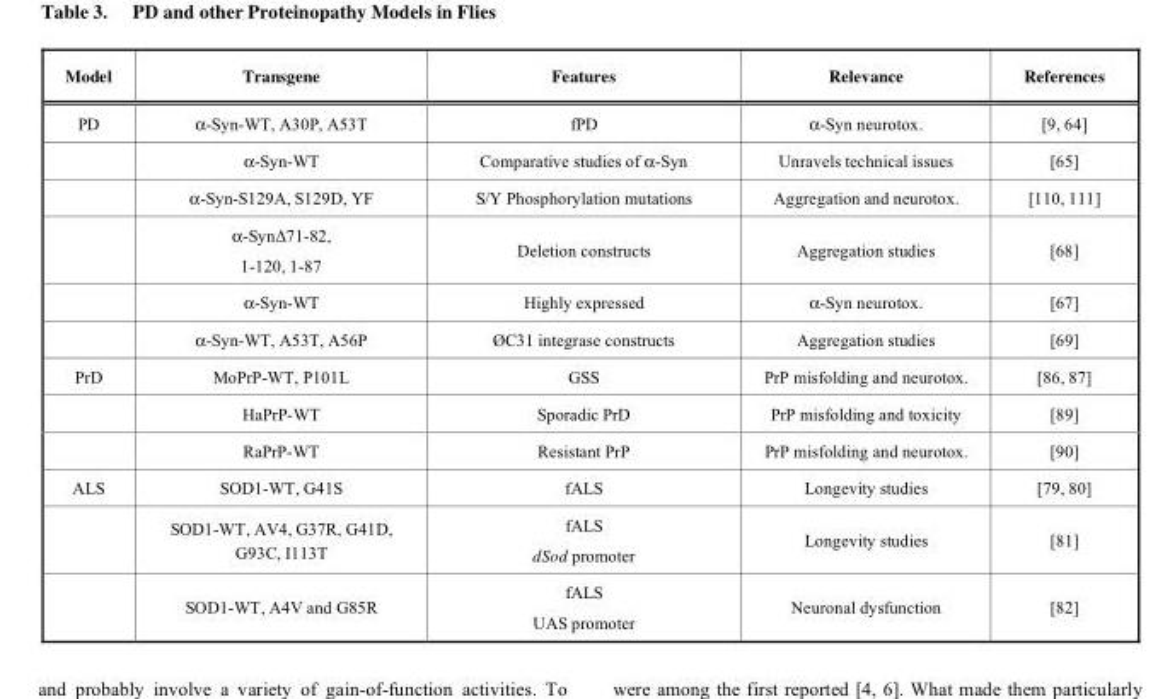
<table><thead><tr><td>Model</td><td>Transgene</td><td>Features</td><td>Relevance</td><td>References</td></tr></thead><tbody><tr><td rowspan="6">PD</td><td>α-Syn-WT, A30P, A53T</td><td>fPD</td><td>α-Syn neurotox.</td><td>[9, 64]</td></tr><tr><td>α-Syn-WT</td><td>Comparative studies of α-Syn</td><td>Unravels technical issues</td><td>[65]</td></tr><tr><td>α-Syn-S129A, S129D, YF</td><td>S/Y Phosphorylation mutations</td><td>Aggregation and neurotox.</td><td>[110, 111]</td></tr><tr><td>α-SynΔ71-82, 1-120, 1-87</td><td>Deletion constructs</td><td>Aggregation studies</td><td>[68]</td></tr><tr><td>α-Syn-WT</td><td>Highly expressed</td><td>a-Syn neurotox.</td><td>[67]</td></tr><tr><td>α-Syn-WT, A53T, A56P</td><td>ØC31 integrase constructs</td><td>Aggregation studies</td><td>[69]</td></tr><tr><td rowspan="3">PrD</td><td>MoPrP-WT, P101L</td><td>GSS</td><td>PrP misfolding and neurotox.</td><td>[86, 87]</td></tr><tr><td>HaPrP-WT</td><td>Sporadic PrD</td><td>PrP misfolding and toxicity</td><td>[89]</td></tr><tr><td>RaPrP-WT</td><td>Resistant PrP</td><td>PrP misfolding and neurotox.</td><td>[90]</td></tr><tr><td rowspan="3">ALS</td><td>SOD1-WT, G41S</td><td>fALS</td><td>Longevity studies</td><td>[79, 80]</td></tr><tr><td>SOD1-WT, AV4, G37R, G41D, G93C, I113T</td><td>fALS dSod promoter</td><td>Longevity studies</td><td>[81]</td></tr><tr><td>SOD1-WT, A4V and G85R</td><td>fALS UAS promoter</td><td>Neuronal dysfunction</td><td>[82]</td></tr></tbody></table>